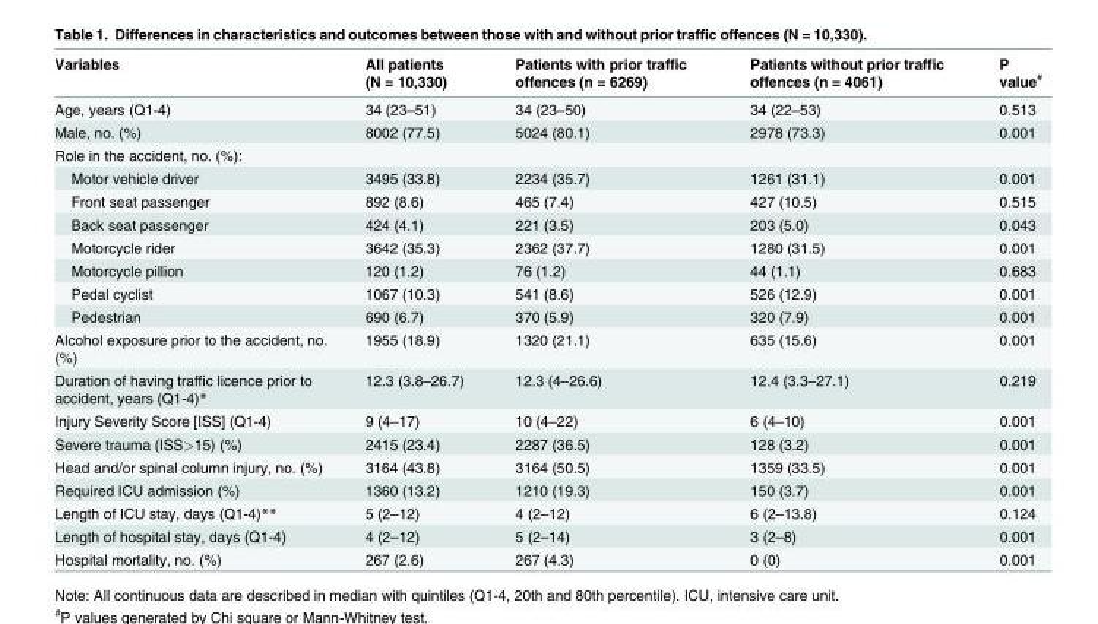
<table><thead><tr><td>Variables</td><td>All patients (N = 10,330)</td><td>Patients with prior traffic offences (n = 6269)</td><td>Patients without prior traffic offences (n = 4061)</td><td>P value<sup>#</sup></td></tr></thead><tbody><tr><td>Age, years (Q1-4)</td><td>34 (23–51)</td><td>34 (23–50)</td><td>34 (22–53)</td><td>0.513</td></tr><tr><td>Male, no. (%)</td><td>8002 (77.5)</td><td>5024 (80.1)</td><td>2978 (73.3)</td><td>0.001</td></tr><tr><td colspan="5">Role in the accident, no. (%):</td></tr><tr><td>Motor vehicle driver</td><td>3495 (33.8)</td><td>2234 (35.7)</td><td>1261 (31.1)</td><td>0.001</td></tr><tr><td>Front seat passenger</td><td>892 (8.6)</td><td>465 (7.4)</td><td>427 (10.5)</td><td>0.515</td></tr><tr><td>Back seat passenger</td><td>424 (4.1)</td><td>221 (3.5)</td><td>203 (5.0)</td><td>0.043</td></tr><tr><td>Motorcycle rider</td><td>3642 (35.3)</td><td>2362 (37.7)</td><td>1280 (31.5)</td><td>0.001</td></tr><tr><td>Motorcycle pillion</td><td>120 (1.2)</td><td>76 (1.2)</td><td>44 (1.1)</td><td>0.683</td></tr><tr><td>Pedal cyclist</td><td>1067 (10.3)</td><td>541 (8.6)</td><td>526 (12.9)</td><td>0.001</td></tr><tr><td>Pedestrian</td><td>690 (6.7)</td><td>370 (5.9)</td><td>320 (7.9)</td><td>0.001</td></tr><tr><td>Alcohol exposure prior to the accident, no. (%)</td><td>1955 (18.9)</td><td>1320 (21.1)</td><td>635 (15.6)</td><td>0.001</td></tr><tr><td>Duration of having traffic licence prior to accident, years (Q1-4)*</td><td>12.3 (3.8–26.7)</td><td>12.3 (4–26.6)</td><td>12.4 (3.3–27.1)</td><td>0.219</td></tr><tr><td>Injury Severity Score [ISS] (Q1-4)</td><td>9 (4–17)</td><td>10 (4–22)</td><td>6 (4–10)</td><td>0.001</td></tr><tr><td>Severe trauma (ISS&gt;15) (%)</td><td>2415 (23.4)</td><td>2287 (36.5)</td><td>128 (3.2)</td><td>0.001</td></tr><tr><td>Head and/or spinal column injury, no. (%)</td><td>3164 (43.8)</td><td>3164 (50.5)</td><td>1359 (33.5)</td><td>0.001</td></tr><tr><td>Required ICU admission (%)</td><td>1360 (13.2)</td><td>1210 (19.3)</td><td>150 (3.7)</td><td>0.001</td></tr><tr><td>Length of ICU stay, days (Q1-4)**</td><td>5 (2–12)</td><td>4 (2–12)</td><td>6 (2–13.8)</td><td>0.124</td></tr><tr><td>Length of hospital stay, days (Q1-4)</td><td>4 (2–12)</td><td>5 (2–14)</td><td>3 (2–8)</td><td>0.001</td></tr><tr><td>Hospital mortality, no. (%)</td><td>267 (2.6)</td><td>267 (4.3)</td><td>0 (0)</td><td>0.001</td></tr></tbody></table>